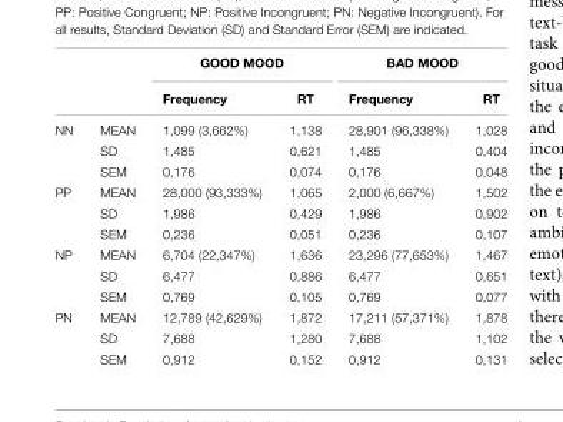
<table><thead><tr><td rowspan="2"></td><td rowspan="2"></td><td colspan="2">GOOD MOOD</td><td colspan="2">BAD MOOD</td></tr><tr><td>Frequency</td><td>RT</td><td>Frequency</td><td>RT</td></tr></thead><tbody><tr><td rowspan="3">NN</td><td>MEAN</td><td>1,099 (3,662%)</td><td>1,138</td><td>28,901 (96,338%)</td><td>1,028</td></tr><tr><td>SD</td><td>1,485</td><td>0,621</td><td>1,485</td><td>0,404</td></tr><tr><td>SEM</td><td>0,176</td><td>0,074</td><td>0,176</td><td>0,048</td></tr><tr><td rowspan="3">PP</td><td>MEAN</td><td>28,000 (93,333%)</td><td>1,065</td><td>2,000 (6,667%)</td><td>1,502</td></tr><tr><td>SD</td><td>1,986</td><td>0,429</td><td>1,986</td><td>0,902</td></tr><tr><td>SEM</td><td>0,236</td><td>0,051</td><td>0,236</td><td>0,107</td></tr><tr><td rowspan="3">NP</td><td>MEAN</td><td>6,704 (22,347%)</td><td>1,636</td><td>23,296 (77,653%)</td><td>1,467</td></tr><tr><td>SD</td><td>6,477</td><td>0,886</td><td>6,477</td><td>0,651</td></tr><tr><td>SEM</td><td>0,769</td><td>0,105</td><td>0,769</td><td>0,077</td></tr><tr><td rowspan="3">PN</td><td>MEAN</td><td>12,789 (42,629%)</td><td>1,872</td><td>17,211 (57,371%)</td><td>1,878</td></tr><tr><td>SD</td><td>7,688</td><td>1,280</td><td>7,688</td><td>1,102</td></tr><tr><td>SEM</td><td>0,912</td><td>0,152</td><td>0,912</td><td>0,131</td></tr></tbody></table>